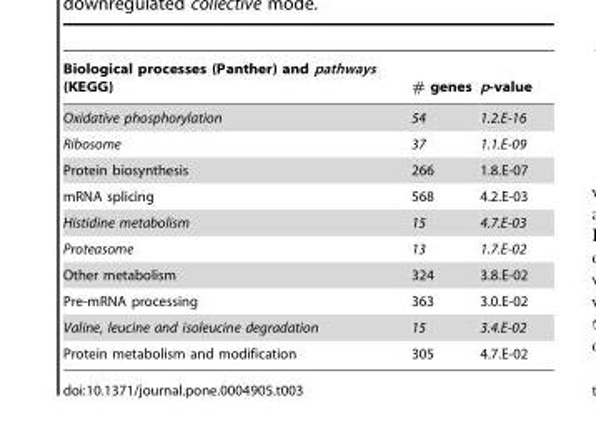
<table><thead><tr><td>Biological processes (Panther) and pathways (KEGG)</td><td># genes</td><td>p-value</td></tr></thead><tbody><tr><td>Oxidative phosphorylation</td><td>54</td><td>1.2.E-16</td></tr><tr><td>Ribosome</td><td>37</td><td>1.1.E-09</td></tr><tr><td>Protein biosynthesis</td><td>266</td><td>1.8.E-07</td></tr><tr><td>mRNA splicing</td><td>568</td><td>4.2.E-03</td></tr><tr><td>Histidine metabolism</td><td>15</td><td>4.7.E-03</td></tr><tr><td>Proteasome</td><td>13</td><td>1.7.E-02</td></tr><tr><td>Other metabolism</td><td>324</td><td>3.8.E-02</td></tr><tr><td>Pre-mRNA processing</td><td>363</td><td>3.0.E-02</td></tr><tr><td>Valine, leucine and isoleucine degradation</td><td>15</td><td>3.4.E-02</td></tr><tr><td>Protein metabolism and modification</td><td>305</td><td>4.7.E-02</td></tr></tbody></table>